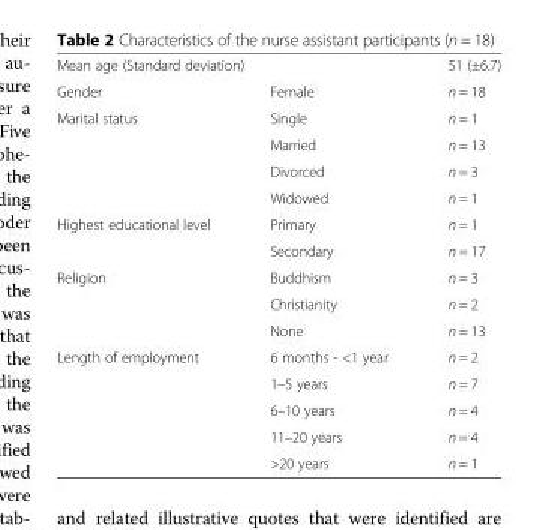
<table><tbody><tr><td colspan="2">Mean age (Standard deviation)</td><td>51 (±6.7)</td></tr><tr><td>Gender</td><td>Female</td><td>n = 18</td></tr><tr><td rowspan="4">Marital status</td><td>Single</td><td>n = 1</td></tr><tr><td>Married</td><td>n = 13</td></tr><tr><td>Divorced</td><td>n = 3</td></tr><tr><td>Widowed</td><td>n = 1</td></tr><tr><td rowspan="2">Highest educational level</td><td>Primary</td><td>n = 1</td></tr><tr><td>Secondary</td><td>n = 17</td></tr><tr><td rowspan="3">Religion</td><td>Buddhism</td><td>n = 3</td></tr><tr><td>Christianity</td><td>n = 2</td></tr><tr><td>None</td><td>n = 13</td></tr><tr><td rowspan="5">Length of employment</td><td>6 months - &lt;1 year</td><td>n = 2</td></tr><tr><td>1–5 years</td><td>n = 7</td></tr><tr><td>6–10 years</td><td>n = 4</td></tr><tr><td>11–20 years</td><td>n = 4</td></tr><tr><td>&gt;20 years</td><td>n = 1</td></tr></tbody></table>